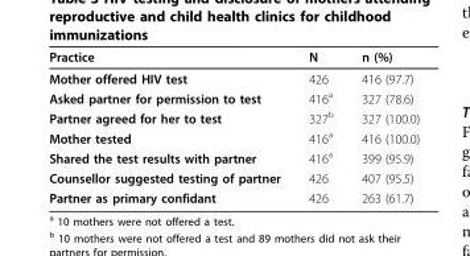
<table><thead><tr><td>Practice</td><td>N</td><td>n (%)</td></tr></thead><tbody><tr><td>Mother offered HIV test</td><td>426</td><td>416 (97.7)</td></tr><tr><td>Asked partner for permission to test</td><td>416<sup>a</sup></td><td>327 (78.6)</td></tr><tr><td>Partner agreed for her to test</td><td>327<sup>b</sup></td><td>327 (100.0)</td></tr><tr><td>Mother tested</td><td>416<sup>a</sup></td><td>416 (100.0)</td></tr><tr><td>Shared the test results with partner</td><td>416<sup>a</sup></td><td>399 (95.9)</td></tr><tr><td>Counsellor suggested testing of partner</td><td>426</td><td>407 (95.5)</td></tr><tr><td>Partner as primary confidant</td><td>426</td><td>263 (61.7)</td></tr></tbody></table>